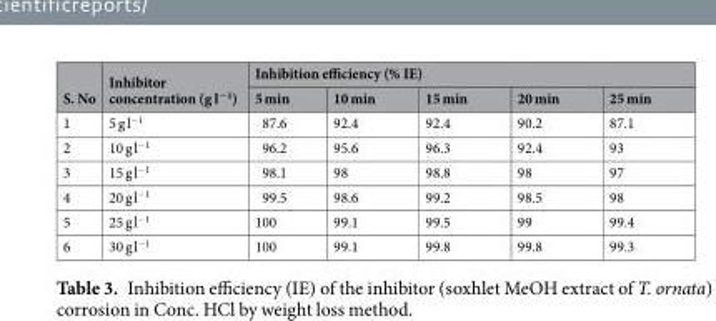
<table><thead><tr><td rowspan="2">S. No</td><td rowspan="2">Inhibitor concentration (g l<sup>−1</sup>)</td><td colspan="5">Inhibition efficiency (% IE)</td></tr><tr><td>5 min</td><td>10 min</td><td>15 min</td><td>20 min</td><td>25 min</td></tr></thead><tbody><tr><td>1</td><td>5 g l<sup>−1</sup></td><td>87.6</td><td>92.4</td><td>92.4</td><td>90.2</td><td>87.1</td></tr><tr><td>2</td><td>10 g l<sup>−1</sup></td><td>96.2</td><td>95.6</td><td>96.3</td><td>92.4</td><td>93</td></tr><tr><td>3</td><td>15 g l<sup>−1</sup></td><td>98.1</td><td>98</td><td>98.8</td><td>98</td><td>97</td></tr><tr><td>4</td><td>20 g l<sup>−1</sup></td><td>99.5</td><td>98.6</td><td>99.2</td><td>98.5</td><td>98</td></tr><tr><td>5</td><td>25 g l<sup>−1</sup></td><td>100</td><td>99.1</td><td>99.5</td><td>99</td><td>99.4</td></tr><tr><td>6</td><td>30 g l<sup>−1</sup></td><td>100</td><td>99.1</td><td>99.8</td><td>99.8</td><td>99.3</td></tr></tbody></table>